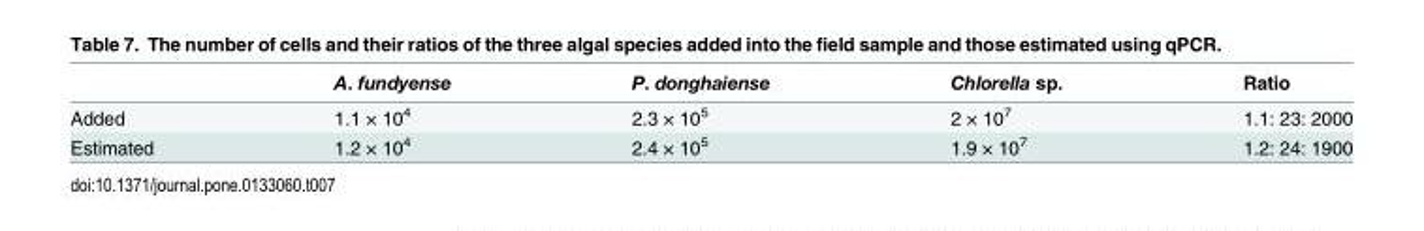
<table><thead><tr><td></td><td>A. fundyense</td><td>P. donghaiense</td><td>Chlorella sp.</td><td>Ratio</td></tr></thead><tbody><tr><td>Added</td><td>1.1 × 10<sup>4</sup></td><td>2.3 × 10<sup>5</sup></td><td>2 × 10<sup>7</sup></td><td>1.1: 23: 2000</td></tr><tr><td>Estimated</td><td>1.2 × 10<sup>4</sup></td><td>2.4 × 10<sup>5</sup></td><td>1.9 × 10<sup>7</sup></td><td>1.2: 24: 1900</td></tr></tbody></table>